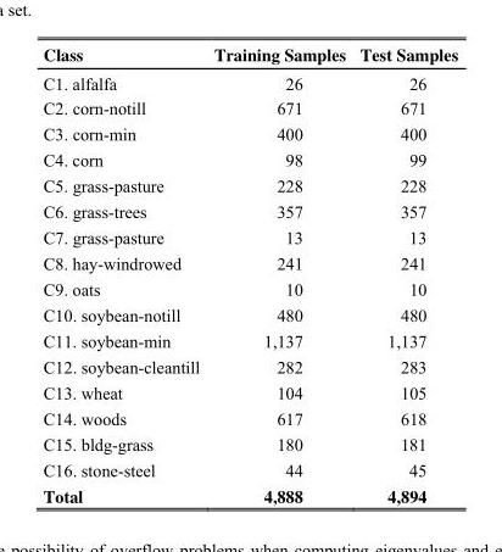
<table><thead><tr><td>Class</td><td>Training Samples</td><td>Test Samples</td></tr></thead><tbody><tr><td>C1. alfalfa</td><td>26</td><td>26</td></tr><tr><td>C2. corn-notill</td><td>671</td><td>671</td></tr><tr><td>C3. corn-min</td><td>400</td><td>400</td></tr><tr><td>C4. corn</td><td>98</td><td>99</td></tr><tr><td>C5. grass-pasture</td><td>228</td><td>228</td></tr><tr><td>C6. grass-trees</td><td>357</td><td>357</td></tr><tr><td>C7. grass-pasture</td><td>13</td><td>13</td></tr><tr><td>C8. hay-windrowed</td><td>241</td><td>241</td></tr><tr><td>C9. oats</td><td>10</td><td>10</td></tr><tr><td>C10. soybean-notill</td><td>480</td><td>480</td></tr><tr><td>C11. soybean-min</td><td>1,137</td><td>1,137</td></tr><tr><td>C12. soybean-cleantill</td><td>282</td><td>283</td></tr><tr><td>C13. wheat</td><td>104</td><td>105</td></tr><tr><td>C14. woods</td><td>617</td><td>618</td></tr><tr><td>C15. bldg-grass</td><td>180</td><td>181</td></tr><tr><td>C16. stone-steel</td><td>44</td><td>45</td></tr><tr><td>Total</td><td>4,888</td><td>4,894</td></tr></tbody></table>